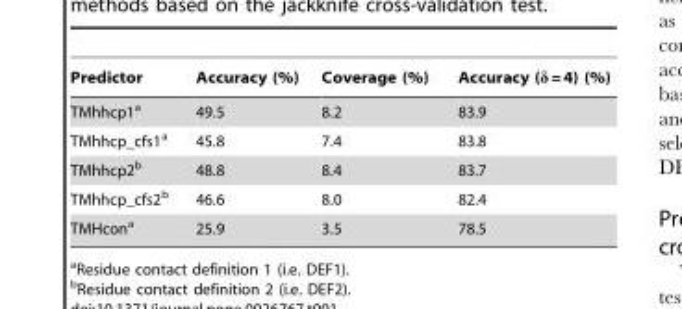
<table><thead><tr><td>Predictor</td><td>Accuracy (%)</td><td>Coverage (%)</td><td>Accuracy (δ = 4) (%)</td></tr></thead><tbody><tr><td>TMhhcp1<sup>a</sup></td><td>49.5</td><td>8.2</td><td>83.9</td></tr><tr><td>TMhhcp_cfs1<sup>a</sup></td><td>45.8</td><td>7.4</td><td>83.8</td></tr><tr><td>TMhhcp2<sup>b</sup></td><td>48.8</td><td>8.4</td><td>83.7</td></tr><tr><td>TMhhcp_cfs2<sup>b</sup></td><td>46.6</td><td>8.0</td><td>82.4</td></tr><tr><td>TMHcon<sup>a</sup></td><td>25.9</td><td>3.5</td><td>78.5</td></tr></tbody></table>